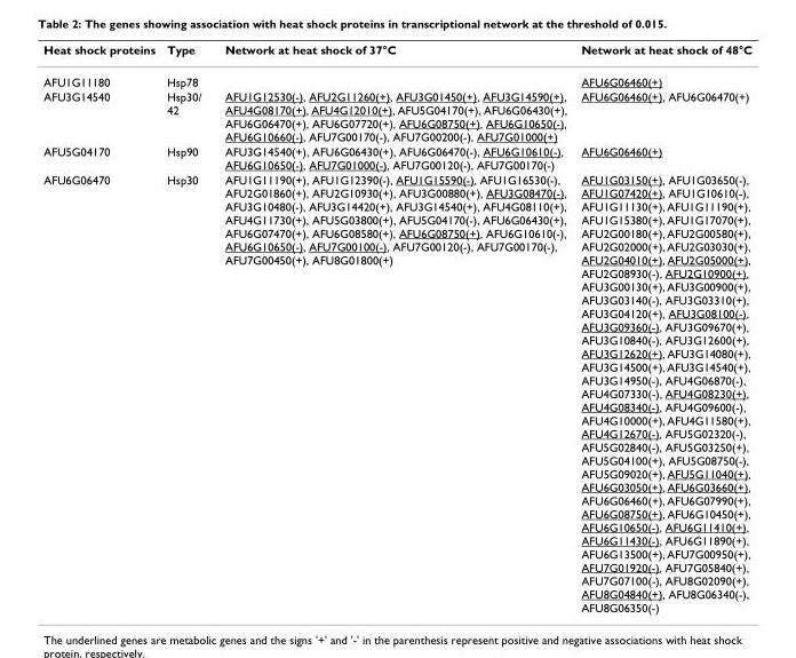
<table><thead><tr><td>Heat shock proteins</td><td>Type</td><td>Network at heat shock of 37°C</td><td>Network at heat shock of 48°C</td></tr></thead><tbody><tr><td>AFU1G11180</td><td>Hsp78</td><td></td><td>AFU6G06460(+)</td></tr><tr><td>AFU3G14540</td><td>Hsp30/ 42</td><td>AFU1G12530(-), AFU2G11260(+), AFU3G01450(+), AFU3G14590(+), AFU4G08170(+), AFU4G12010(+), AFU5G04170(+), AFU6G06430(+), AFU6G06470(+), AFU6G07720(+), AFU6G08750(+), AFU6G10650(-), AFU6G10660(-), AFU7G00170(-), AFU7G00200(-), AFU7G01000(+)</td><td>AFU6G06460(+), AFU6G06470(+)</td></tr><tr><td>AFU5G04170</td><td>Hsp90</td><td>AFU3G14540(+), AFU6G06430(+), AFU6G06470(-), AFU6G10610(-), AFU6G10650(-), AFU7G01000(-), AFU7G00120(-), AFU7G00170(-)</td><td>AFU6G06460(+)</td></tr><tr><td>AFU6G06470</td><td>Hsp30</td><td>AFU1G11190(+), AFU1G12390(-), AFU1G15590(-), AFU1G16530(-), AFU2G01860(+), AFU2G10930(+), AFU3G00880(+), AFU3G08470(-), AFU3G10480(-), AFU3G14420(+), AFU3G14540(+), AFU4G08110(+), AFU4G11730(+), AFU5G03800(+), AFU5G04170(-), AFU6G06430(+), AFU6G07470(+), AFU6G08580(+), AFU6G08750(+), AFU6G10610(-), AFU6G10650(-), AFU7G00100(-), AFU7G00120(-), AFU7G00170(-), AFU7G00450(+), AFU8G01800(+)</td><td>AFU1G03150(+), AFU1G03650(-), AFU1G07420(+), AFU1G10610(-), AFU1G11130(+), AFU1G11190(+), AFU1G15380(+), AFU1G17070(+), AFU2G00180(+), AFU2G00580(+), AFU2G02000(+), AFU2G03030(+), AFU2G04010(+), AFU2G05000(+), AFU2G08930(-), AFU2G10900(+), AFU3G00130(+), AFU3G00900(+), AFU3G03140(-), AFU3G03310(+), AFU3G04120(+), AFU3G08100(-), AFU3G09360(-), AFU3G09670(+), AFU3G10840(-), AFU3G12600(+), AFU3G12620(+), AFU3G14080(+), AFU3G14500(+), AFU3G14540(+), AFU3G14950(-), AFU4G06870(-), AFU4G07330(-), AFU4G08230(+), AFU4G08340(-), AFU4G09600(-), AFU4G10000(+), AFU4G11580(+), AFU4G12670(-), AFU5G02320(-), AFU5G02840(-), AFU5G03250(+), AFU5G04100(+), AFU5G08750(-), AFU5G09020(+), AFU5G11040(+), AFU6G03050(+), AFU6G03660(+), AFU6G06460(+), AFU6G07990(+), AFU6G08750(+), AFU6G10450(+), AFU6G10650(-), AFU6G11410(+), AFU6G11430(-), AFU6G11890(+), AFU6G13500(+), AFU7G00950(+), AFU7G01920(-), AFU7G05840(+), AFU7G07100(-), AFU8G02090(+), AFU8G04840(+), AFU8G06340(-), AFU8G06350(-)</td></tr></tbody></table>